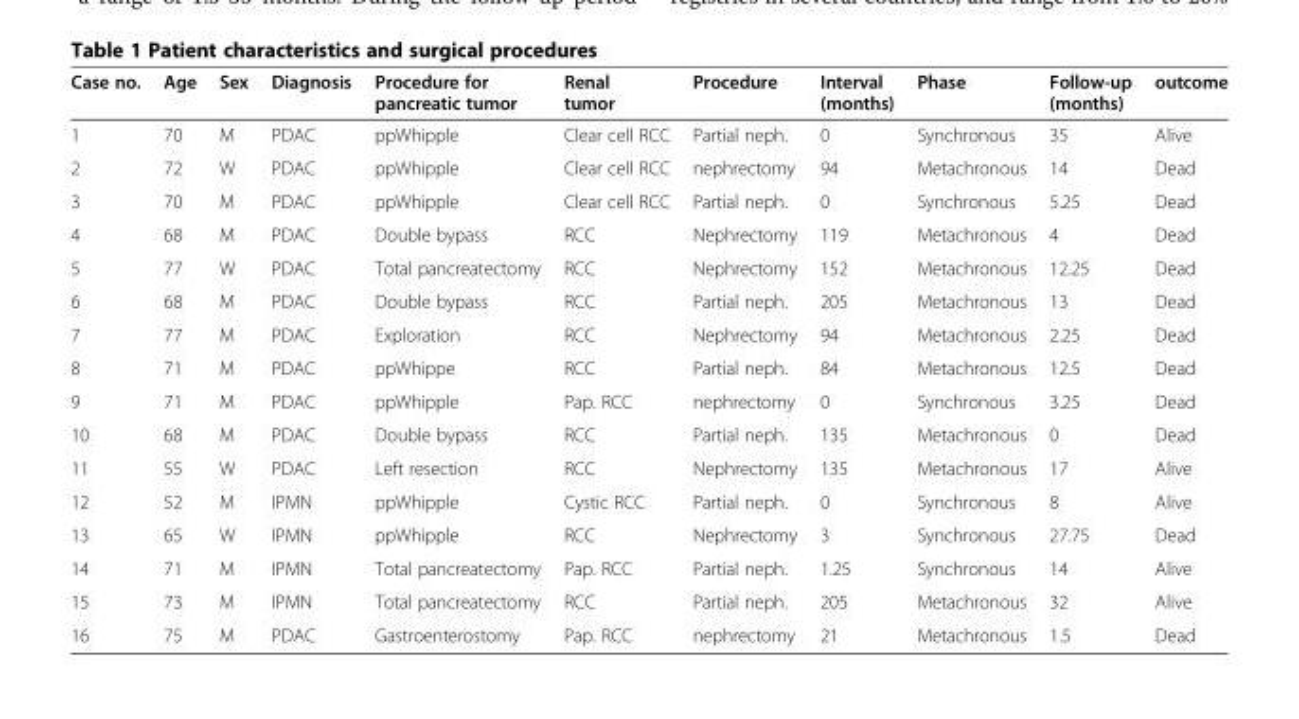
<table><thead><tr><td>Case no.</td><td>Age</td><td>Sex</td><td>Diagnosis</td><td>Procedure for pancreatic tumor</td><td>Renal tumor</td><td>Procedure</td><td>Interval (months)</td><td>Phase</td><td>Follow-up (months)</td><td>outcome</td></tr></thead><tbody><tr><td>1</td><td>70</td><td>M</td><td>PDAC</td><td>ppWhipple</td><td>Clear cell RCC</td><td>Partial neph.</td><td>0</td><td>Synchronous</td><td>35</td><td>Alive</td></tr><tr><td>2</td><td>72</td><td>W</td><td>PDAC</td><td>ppWhipple</td><td>Clear cell RCC</td><td>nephrectomy</td><td>94</td><td>Metachronous</td><td>14</td><td>Dead</td></tr><tr><td>3</td><td>70</td><td>M</td><td>PDAC</td><td>ppWhipple</td><td>Clear cell RCC</td><td>Partial neph.</td><td>0</td><td>Synchronous</td><td>5.25</td><td>Dead</td></tr><tr><td>4</td><td>68</td><td>M</td><td>PDAC</td><td>Double bypass</td><td>RCC</td><td>Nephrectomy</td><td>119</td><td>Metachronous</td><td>4</td><td>Dead</td></tr><tr><td>5</td><td>77</td><td>W</td><td>PDAC</td><td>Total pancreatectomy</td><td>RCC</td><td>Nephrectomy</td><td>152</td><td>Metachronous</td><td>12.25</td><td>Dead</td></tr><tr><td>6</td><td>68</td><td>M</td><td>PDAC</td><td>Double bypass</td><td>RCC</td><td>Partial neph.</td><td>205</td><td>Metachronous</td><td>13</td><td>Dead</td></tr><tr><td>7</td><td>77</td><td>M</td><td>PDAC</td><td>Exploration</td><td>RCC</td><td>Nephrectomy</td><td>94</td><td>Metachronous</td><td>2.25</td><td>Dead</td></tr><tr><td>8</td><td>71</td><td>M</td><td>PDAC</td><td>ppWhippe</td><td>RCC</td><td>Partial neph.</td><td>84</td><td>Metachronous</td><td>12.5</td><td>Dead</td></tr><tr><td>9</td><td>71</td><td>M</td><td>PDAC</td><td>ppWhipple</td><td>Pap. RCC</td><td>nephrectomy</td><td>0</td><td>Synchronous</td><td>3.25</td><td>Dead</td></tr><tr><td>10</td><td>68</td><td>M</td><td>PDAC</td><td>Double bypass</td><td>RCC</td><td>Partial neph.</td><td>135</td><td>Metachronous</td><td>0</td><td>Dead</td></tr><tr><td>11</td><td>55</td><td>W</td><td>PDAC</td><td>Left resection</td><td>RCC</td><td>Nephrectomy</td><td>135</td><td>Metachronous</td><td>17</td><td>Alive</td></tr><tr><td>12</td><td>52</td><td>M</td><td>IPMN</td><td>ppWhipple</td><td>Cystic RCC</td><td>Partial neph.</td><td>0</td><td>Synchronous</td><td>8</td><td>Alive</td></tr><tr><td>13</td><td>65</td><td>W</td><td>IPMN</td><td>ppWhipple</td><td>RCC</td><td>Nephrectomy</td><td>3</td><td>Synchronous</td><td>27.75</td><td>Dead</td></tr><tr><td>14</td><td>71</td><td>M</td><td>IPMN</td><td>Total pancreatectomy</td><td>Pap. RCC</td><td>Partial neph.</td><td>1.25</td><td>Synchronous</td><td>14</td><td>Alive</td></tr><tr><td>15</td><td>73</td><td>M</td><td>IPMN</td><td>Total pancreatectomy</td><td>RCC</td><td>Partial neph.</td><td>205</td><td>Metachronous</td><td>32</td><td>Alive</td></tr><tr><td>16</td><td>75</td><td>M</td><td>PDAC</td><td>Gastroenterostomy</td><td>Pap. RCC</td><td>nephrectomy</td><td>21</td><td>Metachronous</td><td>1.5</td><td>Dead</td></tr></tbody></table>